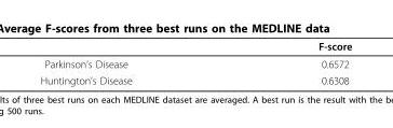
<table><thead><tr><td></td><td>F-score</td></tr></thead><tbody><tr><td>Parkinson’s Disease</td><td>0.6572</td></tr><tr><td>Huntington’s Disease</td><td>0.6308</td></tr></tbody></table>